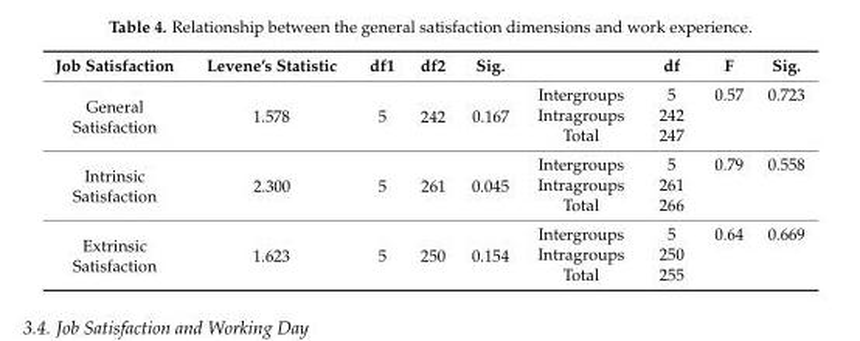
<table><thead><tr><td>Job Satisfaction</td><td>Levene’s Statistic</td><td>df1</td><td>df2</td><td>Sig.</td><td></td><td>df</td><td>F</td><td>Sig.</td></tr></thead><tbody><tr><td rowspan="3">General Satisfaction</td><td rowspan="3">1.578</td><td rowspan="3">5</td><td rowspan="3">242</td><td rowspan="3">0.167</td><td>Intergroups</td><td>5</td><td>0.57</td><td>0.723</td></tr><tr><td>Intragroups</td><td>242</td><td></td><td></td></tr><tr><td>Total</td><td>247</td><td></td><td></td></tr><tr><td rowspan="3">Intrinsic Satisfaction</td><td rowspan="3">2.300</td><td rowspan="3">5</td><td rowspan="3">261</td><td rowspan="3">0.045</td><td>Intergroups</td><td>5</td><td>0.79</td><td>0.558</td></tr><tr><td>Intragroups</td><td>261</td><td></td><td></td></tr><tr><td>Total</td><td>266</td><td></td><td></td></tr><tr><td rowspan="3">Extrinsic Satisfaction</td><td rowspan="3">1.623</td><td rowspan="3">5</td><td rowspan="3">250</td><td rowspan="3">0.154</td><td>Intergroups</td><td>5</td><td>0.64</td><td>0.669</td></tr><tr><td>Intragroups</td><td>250</td><td></td><td></td></tr><tr><td>Total</td><td>255</td><td></td><td></td></tr></tbody></table>